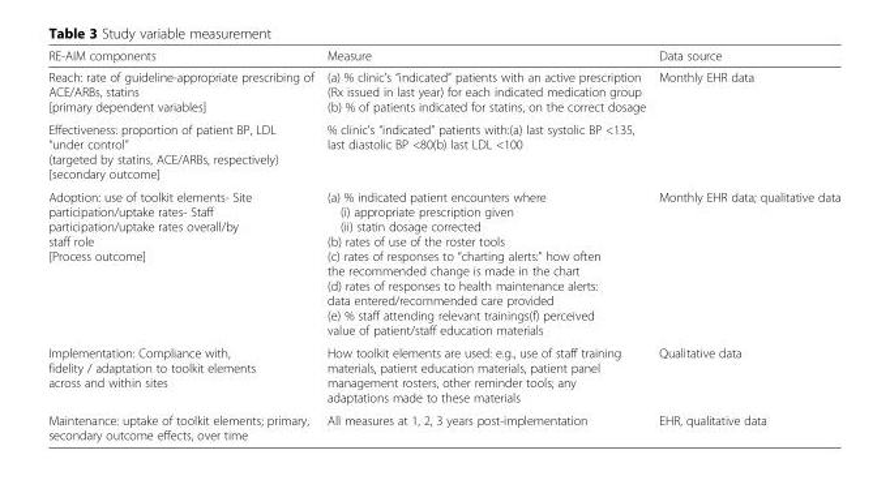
<table><thead><tr><td>RE-AIM components</td><td>Measure</td><td>Data source</td></tr></thead><tbody><tr><td>Reach: rate of guideline-appropriate prescribing of ACE/ARBs, statins [primary dependent variables]</td><td>(a) % clinic’s “indicated” patients with an active prescription (Rx issued in last year) for each indicated medication group (b) % of patients indicated for statins, on the correct dosage</td><td rowspan="2">Monthly EHR data</td></tr><tr><td>Effectiveness: proportion of patient BP, LDL “under control” (targeted by statins, ACE/ARBs, respectively) [secondary outcome]</td><td>% clinic’s “indicated” patients with:(a) last systolic BP &lt;135, last diastolic BP &lt;80(b) last LDL &lt;100</td></tr><tr><td>Adoption: use of toolkit elements- Site participation/uptake rates- Staff participation/uptake rates overall/by staff role [Process outcome]</td><td>(a) % indicated patient encounters where (i) appropriate prescription given (ii) statin dosage corrected (b) rates of use of the roster tools (c) rates of responses to “charting alerts:” how often the recommended change is made in the chart (d) rates of responses to health maintenance alerts: data entered/recommended care provided (e) % staff attending relevant trainings(f) perceived value of patient/staff education materials</td><td>Monthly EHR data; qualitative data</td></tr><tr><td>Implementation: Compliance with, fidelity / adaptation to toolkit elements across and within sites</td><td>How toolkit elements are used: e.g., use of staff training materials, patient education materials, patient panel management rosters, other reminder tools; any adaptations made to these materials</td><td>Qualitative data</td></tr><tr><td>Maintenance: uptake of toolkit elements; primary, secondary outcome effects, over time</td><td>All measures at 1, 2, 3 years post-implementation</td><td>EHR, qualitative data</td></tr></tbody></table>